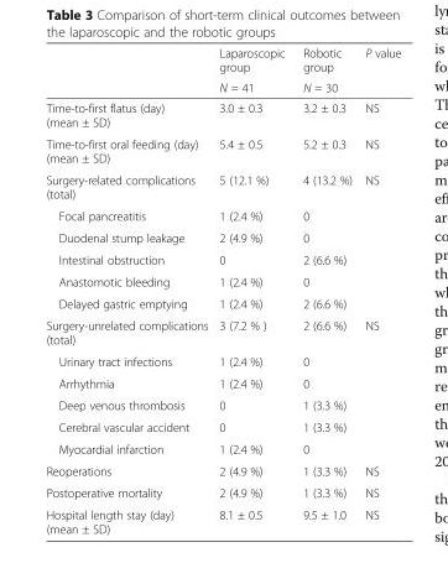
<table><thead><tr><td rowspan="2"></td><td rowspan="2">Laparoscopic group N = 41</td><td rowspan="2">Robotic group N = 30</td><td rowspan="2">P value</td></tr><tr></tr></thead><tbody><tr><td>Time-to-first flatus (day) (mean ± SD)</td><td>3.0 ± 0.3</td><td>3.2 ± 0.3</td><td>NS</td></tr><tr><td>Time-to-first oral feeding (day) (mean ± SD)</td><td>5.4 ± 0.5</td><td>5.2 ± 0.3</td><td>NS</td></tr><tr><td>Surgery-related complications (total)</td><td>5 (12.1 %)</td><td>4 (13.2 %)</td><td>NS</td></tr><tr><td>Focal pancreatitis</td><td>1 (2.4 %)</td><td>0</td><td></td></tr><tr><td>Duodenal stump leakage</td><td>2 (4.9 %)</td><td>0</td><td></td></tr><tr><td>Intestinal obstruction</td><td>0</td><td>2 (6.6 %)</td><td></td></tr><tr><td>Anastomotic bleeding</td><td>1 (2.4 %)</td><td>0</td><td></td></tr><tr><td>Delayed gastric emptying</td><td>1 (2.4 %)</td><td>2 (6.6 %)</td><td></td></tr><tr><td>Surgery-unrelated complications (total)</td><td>3 (7.2 % )</td><td>2 (6.6 %)</td><td>NS</td></tr><tr><td>Urinary tract infections</td><td>1 (2.4 %)</td><td>0</td><td></td></tr><tr><td>Arrhythmia</td><td>1 (2.4 %)</td><td>0</td><td></td></tr><tr><td>Deep venous thrombosis</td><td>0</td><td>1 (3.3 %)</td><td></td></tr><tr><td>Cerebral vascular accident</td><td>0</td><td>1 (3.3 %)</td><td></td></tr><tr><td>Myocardial infarction</td><td>1 (2.4 %)</td><td>0</td><td></td></tr><tr><td>Reoperations</td><td>2 (4.9 %)</td><td>1 (3.3 %)</td><td>NS</td></tr><tr><td>Postoperative mortality</td><td>2 (4.9 %)</td><td>1 (3.3 %)</td><td>NS</td></tr><tr><td>Hospital length stay (day) (mean ± SD)</td><td>8.1 ± 0.5</td><td>9.5 ± 1.0</td><td>NS</td></tr></tbody></table>